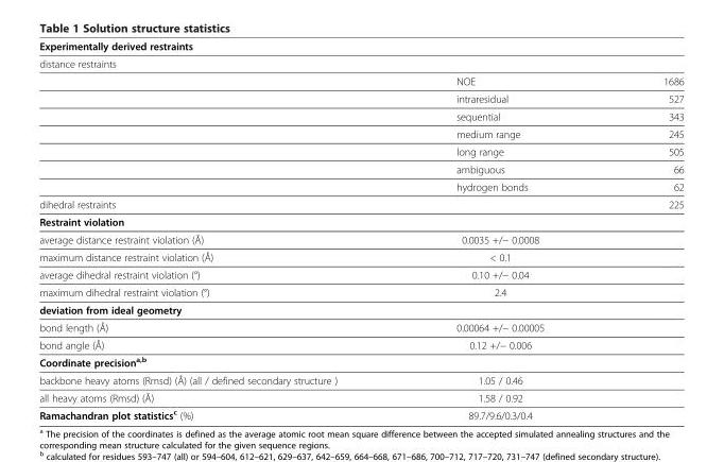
<table><thead><tr><td>Experimentally derived restraints</td><td></td><td></td></tr></thead><tbody><tr><td colspan="3">distance restraints</td></tr><tr><td></td><td>NOE</td><td>1686</td></tr><tr><td></td><td>intraresidual</td><td>527</td></tr><tr><td></td><td>sequential</td><td>343</td></tr><tr><td></td><td>medium range</td><td>245</td></tr><tr><td></td><td>long range</td><td>505</td></tr><tr><td></td><td>ambiguous</td><td>66</td></tr><tr><td></td><td>hydrogen bonds</td><td>62</td></tr><tr><td>dihedral restraints</td><td></td><td>225</td></tr><tr><td colspan="3">Restraint violation</td></tr><tr><td>average distance restraint violation (Å)</td><td>0.0035 +/− 0.0008</td><td></td></tr><tr><td>maximum distance restraint violation (Å)</td><td>&lt; 0.1</td><td></td></tr><tr><td>average dihedral restraint violation (°)</td><td>0.10 +/− 0.04</td><td></td></tr><tr><td>maximum dihedral restraint violation (°)</td><td>2.4</td><td></td></tr><tr><td colspan="3">deviation from ideal geometry</td></tr><tr><td>bond length (Å)</td><td>0.00064 +/− 0.00005</td><td></td></tr><tr><td>bond angle (Å)</td><td>0.12 +/− 0.006</td><td></td></tr><tr><td colspan="3">Coordinate precision<sup>a,b</sup></td></tr><tr><td>backbone heavy atoms (Rmsd) (Å) (all / defined secondary structure )</td><td>1.05 / 0.46</td><td></td></tr><tr><td>all heavy atoms (Rmsd) (Å)</td><td>1.58 / 0.92</td><td></td></tr><tr><td>Ramachandran plot statistics<sup>c</sup> (%)</td><td>89.7/9.6/0.3/0.4</td><td></td></tr></tbody></table>